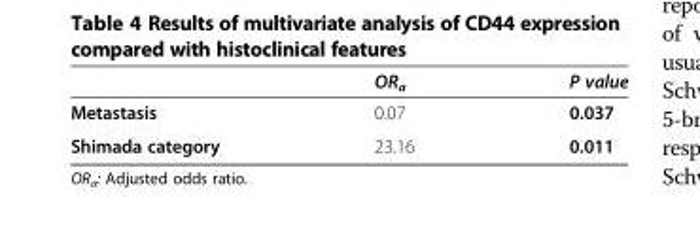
<table><thead><tr><td></td><td>OR<sub>a</sub></td><td>P value</td></tr></thead><tbody><tr><td>Metastasis</td><td>0.07</td><td>0.037</td></tr><tr><td>Shimada category</td><td>23.16</td><td>0.011</td></tr></tbody></table>